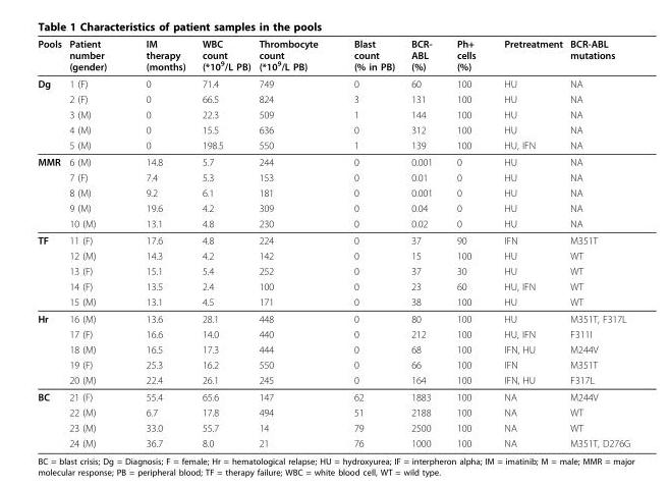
<table><thead><tr><td>Pools</td><td>Patient number (gender)</td><td>IM therapy (months)</td><td>WBC count (*10<sup>9</sup>/L PB)</td><td>Thrombocyte count (*10<sup>9</sup>/L PB)</td><td>Blast count (% in PB)</td><td>BCR- ABL (%)</td><td>Ph+ cells (%)</td><td>Pretreatment</td><td>BCR-ABL mutations</td></tr></thead><tbody><tr><td rowspan="5">Dg</td><td>1 (F)</td><td>0</td><td>71.4</td><td>749</td><td>0</td><td>60</td><td>100</td><td>HU</td><td>NA</td></tr><tr><td>2 (F)</td><td>0</td><td>66.5</td><td>824</td><td>3</td><td>131</td><td>100</td><td>HU</td><td>NA</td></tr><tr><td>3 (M)</td><td>0</td><td>22.3</td><td>509</td><td>1</td><td>144</td><td>100</td><td>HU</td><td>NA</td></tr><tr><td>4 (M)</td><td>0</td><td>15.5</td><td>636</td><td>0</td><td>312</td><td>100</td><td>HU</td><td>NA</td></tr><tr><td>5 (M)</td><td>0</td><td>198.5</td><td>550</td><td>1</td><td>139</td><td>100</td><td>HU, IFN</td><td>NA</td></tr><tr><td rowspan="5">MMR</td><td>6 (M)</td><td>14.8</td><td>5.7</td><td>244</td><td>0</td><td>0.001</td><td>0</td><td>HU</td><td>NA</td></tr><tr><td>7 (F)</td><td>7.4</td><td>5.3</td><td>153</td><td>0</td><td>0.01</td><td>0</td><td>HU</td><td>NA</td></tr><tr><td>8 (M)</td><td>9.2</td><td>6.1</td><td>181</td><td>0</td><td>0.001</td><td>0</td><td>HU</td><td>NA</td></tr><tr><td>9 (M)</td><td>19.6</td><td>4.2</td><td>309</td><td>0</td><td>0.04</td><td>0</td><td>HU</td><td>NA</td></tr><tr><td>10 (M)</td><td>13.1</td><td>4.8</td><td>230</td><td>0</td><td>0.02</td><td>0</td><td>HU</td><td>NA</td></tr><tr><td rowspan="5">TF</td><td>11 (F)</td><td>17.6</td><td>4.8</td><td>224</td><td>0</td><td>37</td><td>90</td><td>IFN</td><td>M351T</td></tr><tr><td>12 (M)</td><td>14.3</td><td>4.2</td><td>142</td><td>0</td><td>15</td><td>100</td><td>HU</td><td>WT</td></tr><tr><td>13 (F)</td><td>15.1</td><td>5.4</td><td>252</td><td>0</td><td>37</td><td>30</td><td>HU</td><td>WT</td></tr><tr><td>14 (F)</td><td>13.5</td><td>2.4</td><td>100</td><td>0</td><td>23</td><td>60</td><td>HU, IFN</td><td>WT</td></tr><tr><td>15 (M)</td><td>13.1</td><td>4.5</td><td>171</td><td>0</td><td>38</td><td>100</td><td>HU</td><td>WT</td></tr><tr><td rowspan="5">Hr</td><td>16 (M)</td><td>13.6</td><td>28.1</td><td>448</td><td>0</td><td>80</td><td>100</td><td>HU</td><td>M351T, F317L</td></tr><tr><td>17 (F)</td><td>16.6</td><td>14.0</td><td>440</td><td>0</td><td>212</td><td>100</td><td>HU, IFN</td><td>F311I</td></tr><tr><td>18 (M)</td><td>16.5</td><td>17.3</td><td>444</td><td>0</td><td>68</td><td>100</td><td>IFN, HU</td><td>M244V</td></tr><tr><td>19 (F)</td><td>25.3</td><td>16.2</td><td>550</td><td>0</td><td>66</td><td>100</td><td>IFN</td><td>M351T</td></tr><tr><td>20 (M)</td><td>22.4</td><td>26.1</td><td>245</td><td>0</td><td>164</td><td>100</td><td>IFN, HU</td><td>F317L</td></tr><tr><td rowspan="4">BC</td><td>21 (F)</td><td>55.4</td><td>65.6</td><td>147</td><td>62</td><td>1883</td><td>100</td><td>NA</td><td>M244V</td></tr><tr><td>22 (M)</td><td>6.7</td><td>17.8</td><td>494</td><td>51</td><td>2188</td><td>100</td><td>NA</td><td>WT</td></tr><tr><td>23 (M)</td><td>33.0</td><td>55.7</td><td>14</td><td>79</td><td>2500</td><td>100</td><td>NA</td><td>WT</td></tr><tr><td>24 (M)</td><td>36.7</td><td>8.0</td><td>21</td><td>76</td><td>1000</td><td>100</td><td>NA</td><td>M351T, D276G</td></tr></tbody></table>